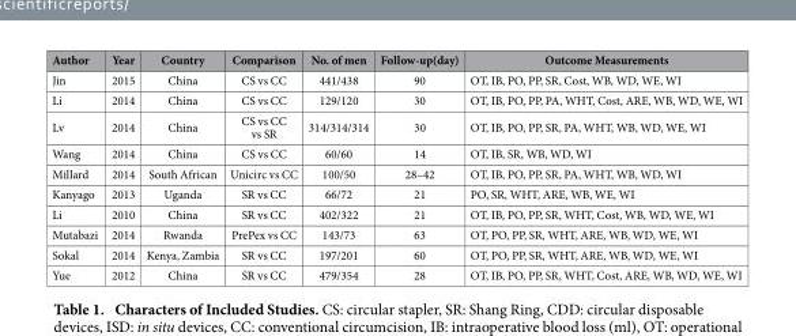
<table><thead><tr><td>Author</td><td>Year</td><td>Country</td><td>Comparison</td><td>No. of men</td><td>Follow-up(day)</td><td>Outcome Measurements</td></tr></thead><tbody><tr><td>Jin</td><td>2015</td><td>China</td><td>CS vs CC</td><td>441/438</td><td>90</td><td>OT, IB, PO, PP, SR, Cost, WB, WD, WE, WI</td></tr><tr><td>Li</td><td>2014</td><td>China</td><td>CS vs CC</td><td>129/120</td><td>30</td><td>OT, IB, PO, PP, PA, WHT, Cost, ARE, WB, WD, WE, WI</td></tr><tr><td>Lv</td><td>2014</td><td>China</td><td>CS vs CC vs SR</td><td>314/314/314</td><td>30</td><td>OT, IB, PO, PP, SR, PA, WHT, WB, WD, WE, WI</td></tr><tr><td>Wang</td><td>2014</td><td>China</td><td>CS vs CC</td><td>60/60</td><td>14</td><td>OT, IB, SR, WB, WD, WI</td></tr><tr><td>Millard</td><td>2014</td><td>South African</td><td>Unicirc vs CC</td><td>100/50</td><td>28–42</td><td>OT, IB, PO, PP, SR, PA, WHT, WB, WD, WI</td></tr><tr><td>Kanyago</td><td>2013</td><td>Uganda</td><td>SR vs CC</td><td>66/72</td><td>21</td><td>PO, SR, WHT, ARE, WB, WE, WI</td></tr><tr><td>Li</td><td>2010</td><td>China</td><td>SR vs CC</td><td>402/322</td><td>21</td><td>OT, IB, PO, PP, SR, WHT, Cost, WB, WD, WE, WI</td></tr><tr><td>Mutabazi</td><td>2014</td><td>Rwanda</td><td>PrePex vs CC</td><td>143/73</td><td>63</td><td>OT, PO, PP, SR, WHT, ARE, WB, WD, WE, WI</td></tr><tr><td>Sokal</td><td>2014</td><td>Kenya, Zambia</td><td>SR vs CC</td><td>197/201</td><td>60</td><td>OT, PO, PP, SR, WHT, ARE, WB, WD, WE, WI</td></tr><tr><td>Yue</td><td>2012</td><td>China</td><td>SR vs CC</td><td>479/354</td><td>28</td><td>OT, IB, PO, PP, SR, WHT, Cost, ARE, WB, WD, WE, WI</td></tr></tbody></table>